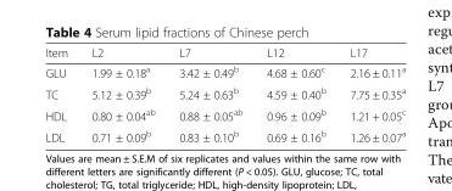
<table><thead><tr><td>Item</td><td>L2</td><td>L7</td><td>L12</td><td>L17</td></tr></thead><tbody><tr><td>GLU</td><td>1.99 ± 0.18<sup>a</sup></td><td>3.42 ± 0.49<sup>b</sup></td><td>4.68 ± 0.60<sup>c</sup></td><td>2.16 ± 0.11<sup>a</sup></td></tr><tr><td>TC</td><td>5.12 ± 0.39<sup>b</sup></td><td>5.24 ± 0.63<sup>b</sup></td><td>4.59 ± 0.40<sup>b</sup></td><td>7.75 ± 0.35<sup>a</sup></td></tr><tr><td>HDL</td><td>0.80 ± 0.04<sup>ab</sup></td><td>0.88 ± 0.05<sup>ab</sup></td><td>0.96 ± 0.09<sup>b</sup></td><td>1.21 + 0.05<sup>c</sup></td></tr><tr><td>LDL</td><td>0.71 ± 0.09<sup>b</sup></td><td>0.83 ± 0.10<sup>b</sup></td><td>0.69 ± 0.16<sup>b</sup></td><td>1.26 ± 0.07<sup>a</sup></td></tr></tbody></table>